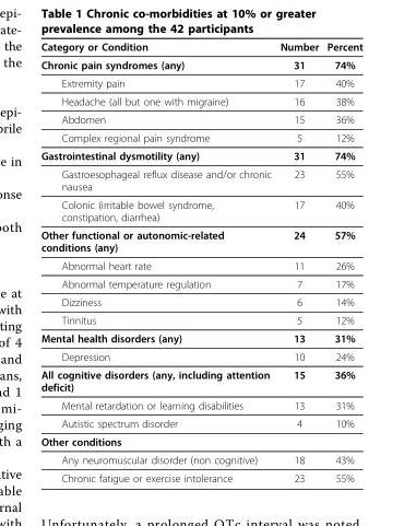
<table><thead><tr><td>Category or Condition</td><td>Number</td><td>Percent</td></tr></thead><tbody><tr><td>Chronic pain syndromes (any)</td><td>31</td><td>74%</td></tr><tr><td>Extremity pain</td><td>17</td><td>40%</td></tr><tr><td>Headache (all but one with migraine)</td><td>16</td><td>38%</td></tr><tr><td>Abdomen</td><td>15</td><td>36%</td></tr><tr><td>Complex regional pain syndrome</td><td>5</td><td>12%</td></tr><tr><td>Gastrointestinal dysmotility (any)</td><td>31</td><td>74%</td></tr><tr><td>Gastroesophageal reflux disease and/or chronic nausea</td><td>23</td><td>55%</td></tr><tr><td>Colonic (irritable bowel syndrome, constipation, diarrhea)</td><td>17</td><td>40%</td></tr><tr><td>Other functional or autonomic-related conditions (any)</td><td>24</td><td>57%</td></tr><tr><td>Abnormal heart rate</td><td>11</td><td>26%</td></tr><tr><td>Abnormal temperature regulation</td><td>7</td><td>17%</td></tr><tr><td>Dizziness</td><td>6</td><td>14%</td></tr><tr><td>Tinnitus</td><td>5</td><td>12%</td></tr><tr><td>Mental health disorders (any)</td><td>13</td><td>31%</td></tr><tr><td>Depression</td><td>10</td><td>24%</td></tr><tr><td>All cognitive disorders (any, including attention deficit)</td><td>15</td><td>36%</td></tr><tr><td>Mental retardation or learning disabilities</td><td>13</td><td>31%</td></tr><tr><td>Autistic spectrum disorder</td><td>4</td><td>10%</td></tr><tr><td colspan="3">Other conditions</td></tr><tr><td>Any neuromuscular disorder (non cognitive)</td><td>18</td><td>43%</td></tr><tr><td>Chronic fatigue or exercise intolerance</td><td>23</td><td>55%</td></tr></tbody></table>